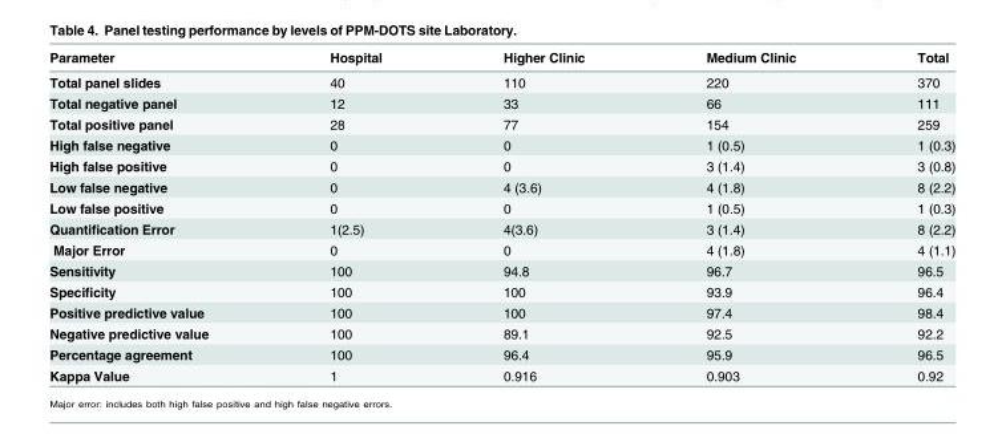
<table><thead><tr><td>Parameter</td><td>Hospital</td><td>Higher Clinic</td><td>Medium Clinic</td><td>Total</td></tr></thead><tbody><tr><td>Total panel slides</td><td>40</td><td>110</td><td>220</td><td>370</td></tr><tr><td>Total negative panel</td><td>12</td><td>33</td><td>66</td><td>111</td></tr><tr><td>Total positive panel</td><td>28</td><td>77</td><td>154</td><td>259</td></tr><tr><td>High false negative</td><td>0</td><td>0</td><td>1 (0.5)</td><td>1 (0.3)</td></tr><tr><td>High false positive</td><td>0</td><td>0</td><td>3 (1.4)</td><td>3 (0.8)</td></tr><tr><td>Low false negative</td><td>0</td><td>4 (3.6)</td><td>4 (1.8)</td><td>8 (2.2)</td></tr><tr><td>Low false positive</td><td>0</td><td>0</td><td>1 (0.5)</td><td>1 (0.3)</td></tr><tr><td>Quantification Error</td><td>1(2.5)</td><td>4(3.6)</td><td>3 (1.4)</td><td>8 (2.2)</td></tr><tr><td>Major Error</td><td>0</td><td>0</td><td>4 (1.8)</td><td>4 (1.1)</td></tr><tr><td>Sensitivity</td><td>100</td><td>94.8</td><td>96.7</td><td>96.5</td></tr><tr><td>Specificity</td><td>100</td><td>100</td><td>93.9</td><td>96.4</td></tr><tr><td>Positive predictive value</td><td>100</td><td>100</td><td>97.4</td><td>98.4</td></tr><tr><td>Negative predictive value</td><td>100</td><td>89.1</td><td>92.5</td><td>92.2</td></tr><tr><td>Percentage agreement</td><td>100</td><td>96.4</td><td>95.9</td><td>96.5</td></tr><tr><td>Kappa Value</td><td>1</td><td>0.916</td><td>0.903</td><td>0.92</td></tr></tbody></table>